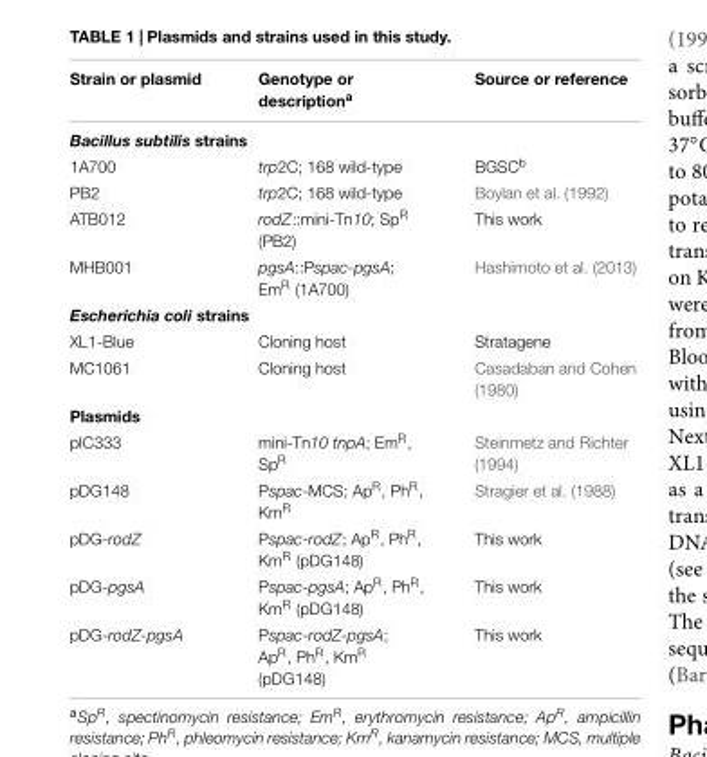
<table><thead><tr><td>Strain or plasmid</td><td>Genotype or description<sup>a</sup></td><td>Source or reference</td></tr></thead><tbody><tr><td colspan="3">Bacillus subtilis strains</td></tr><tr><td>1A700</td><td>trp2C; 168 wild-type</td><td>BGSC<sup>b</sup></td></tr><tr><td>PB2</td><td>trp2C; 168 wild-type</td><td>Boylan et al. (1992)</td></tr><tr><td>ATB012</td><td>rodZ::mini-Tn10; Sp<sup>R</sup> (PB2)</td><td>This work</td></tr><tr><td>MHB001</td><td>pgsA::Pspac-pgsA; Em<sup>R</sup> (1A700)</td><td>Hashimoto et al. (2013)</td></tr><tr><td colspan="3">Escherichia coli strains</td></tr><tr><td>XL1-Blue</td><td>Cloning host</td><td>Stratagene</td></tr><tr><td>MC1061</td><td>Cloning host</td><td>Casadaban and Cohen (1980)</td></tr><tr><td colspan="3">Plasmids</td></tr><tr><td>pIC333</td><td>mini-Tn10 tnpA; Em<sup>R</sup>, Sp<sup>R</sup></td><td>Steinmetz and Richter (1994)</td></tr><tr><td>pDG148</td><td>Pspac-MCS; Ap<sup>R</sup>, Ph<sup>R</sup>, Km<sup>R</sup></td><td>Stragier et al. (1988)</td></tr><tr><td>pDG-rodZ</td><td>Pspac-rodZ; Ap<sup>R</sup>, Ph<sup>R</sup>, Km<sup>R</sup> (pDG148)</td><td>This work</td></tr><tr><td>pDG-pgsA</td><td>Pspac-pgsA; Ap<sup>R</sup>, Ph<sup>R</sup>, Km<sup>R</sup> (pDG148)</td><td>This work</td></tr><tr><td>pDG-rodZ-pgsA</td><td>Pspac-rodZ-pgsA; Ap<sup>R</sup>, Ph<sup>R</sup>, Km<sup>R</sup> (pDG148)</td><td>This work</td></tr></tbody></table>